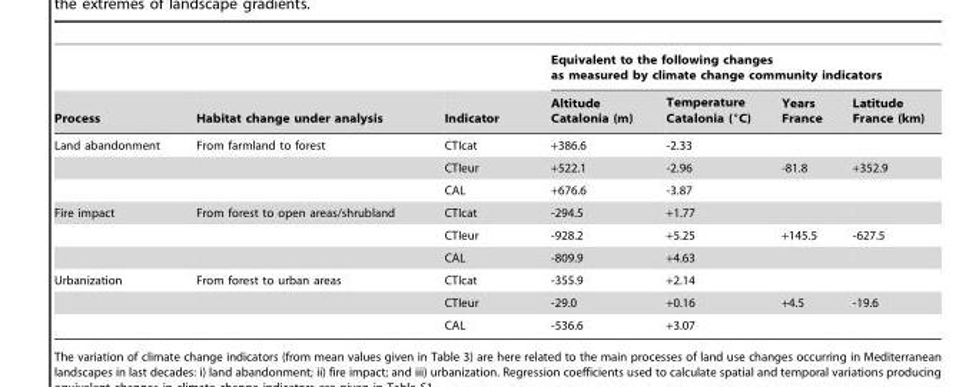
<table><thead><tr><td rowspan="2">Process</td><td rowspan="2">Habitat change under analysis</td><td rowspan="2">Indicator</td><td colspan="4">Equivalent to the following changes as measured by climate change community indicators</td></tr><tr><td>Altitude Catalonia (m)</td><td>Temperature Catalonia (°C)</td><td>Years France</td><td>Latitude France (km)</td></tr></thead><tbody><tr><td rowspan="3">Land abandonment</td><td>From farmland to forest</td><td>CTIcat</td><td>+386.6</td><td>-2.33</td><td></td><td></td></tr><tr><td></td><td>CTIeur</td><td>+522.1</td><td>-2.96</td><td>-81.8</td><td>+352.9</td></tr><tr><td></td><td>CAL</td><td>+676.6</td><td>-3.87</td><td></td><td></td></tr><tr><td rowspan="3">Fire impact</td><td>From forest to open areas/shrubland</td><td>CTIcat</td><td>-294.5</td><td>+1.77</td><td></td><td></td></tr><tr><td></td><td>CTIeur</td><td>-928.2</td><td>+5.25</td><td>+145.5</td><td>-627.5</td></tr><tr><td></td><td>CAL</td><td>-809.9</td><td>+4.63</td><td></td><td></td></tr><tr><td rowspan="3">Urbanization</td><td>From forest to urban areas</td><td>CTIcat</td><td>-355.9</td><td>+2.14</td><td></td><td></td></tr><tr><td></td><td>CTIeur</td><td>-29.0</td><td>+0.16</td><td>+4.5</td><td>-19.6</td></tr><tr><td></td><td>CAL</td><td>-536.6</td><td>+3.07</td><td></td><td></td></tr></tbody></table>